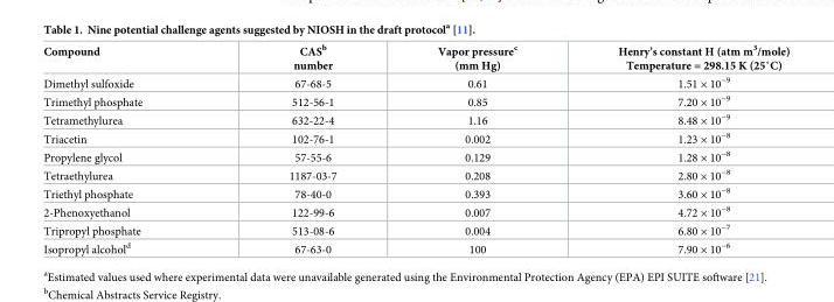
<table><thead><tr><td>Compound</td><td>CAS<sup>b</sup> number</td><td>Vapor pressure<sup>c</sup> (mm Hg)</td><td>Henry’s constant H (atm m3/mole) Temperature = 298.15 K (25˚C)</td></tr></thead><tbody><tr><td>Dimethyl sulfoxide</td><td>67-68-5</td><td>0.61</td><td>1.51 × 10<sup>−9</sup></td></tr><tr><td>Trimethyl phosphate</td><td>512-56-1</td><td>0.85</td><td>7.20 × 10<sup>−9</sup></td></tr><tr><td>Tetramethylurea</td><td>632-22-4</td><td>1.16</td><td>8.48 × 10<sup>−9</sup></td></tr><tr><td>Triacetin</td><td>102-76-1</td><td>0.002</td><td>1.23 × 10<sup>−8</sup></td></tr><tr><td>Propylene glycol</td><td>57-55-6</td><td>0.129</td><td>1.28 × 10<sup>−8</sup></td></tr><tr><td>Tetraethylurea</td><td>1187-03-7</td><td>0.208</td><td>2.80 × 10<sup>−8</sup></td></tr><tr><td>Triethyl phosphate</td><td>78-40-0</td><td>0.393</td><td>3.60 × 10<sup>−8</sup></td></tr><tr><td>2-Phenoxyethanol</td><td>122-99-6</td><td>0.007</td><td>4.72 × 10<sup>−8</sup></td></tr><tr><td>Tripropyl phosphate</td><td>513-08-6</td><td>0.004</td><td>6.80 × 10<sup>−7</sup></td></tr><tr><td>Isopropyl alcohol<sup>d</sup></td><td>67-63-0</td><td>100</td><td>7.90 × 10<sup>−6</sup></td></tr></tbody></table>